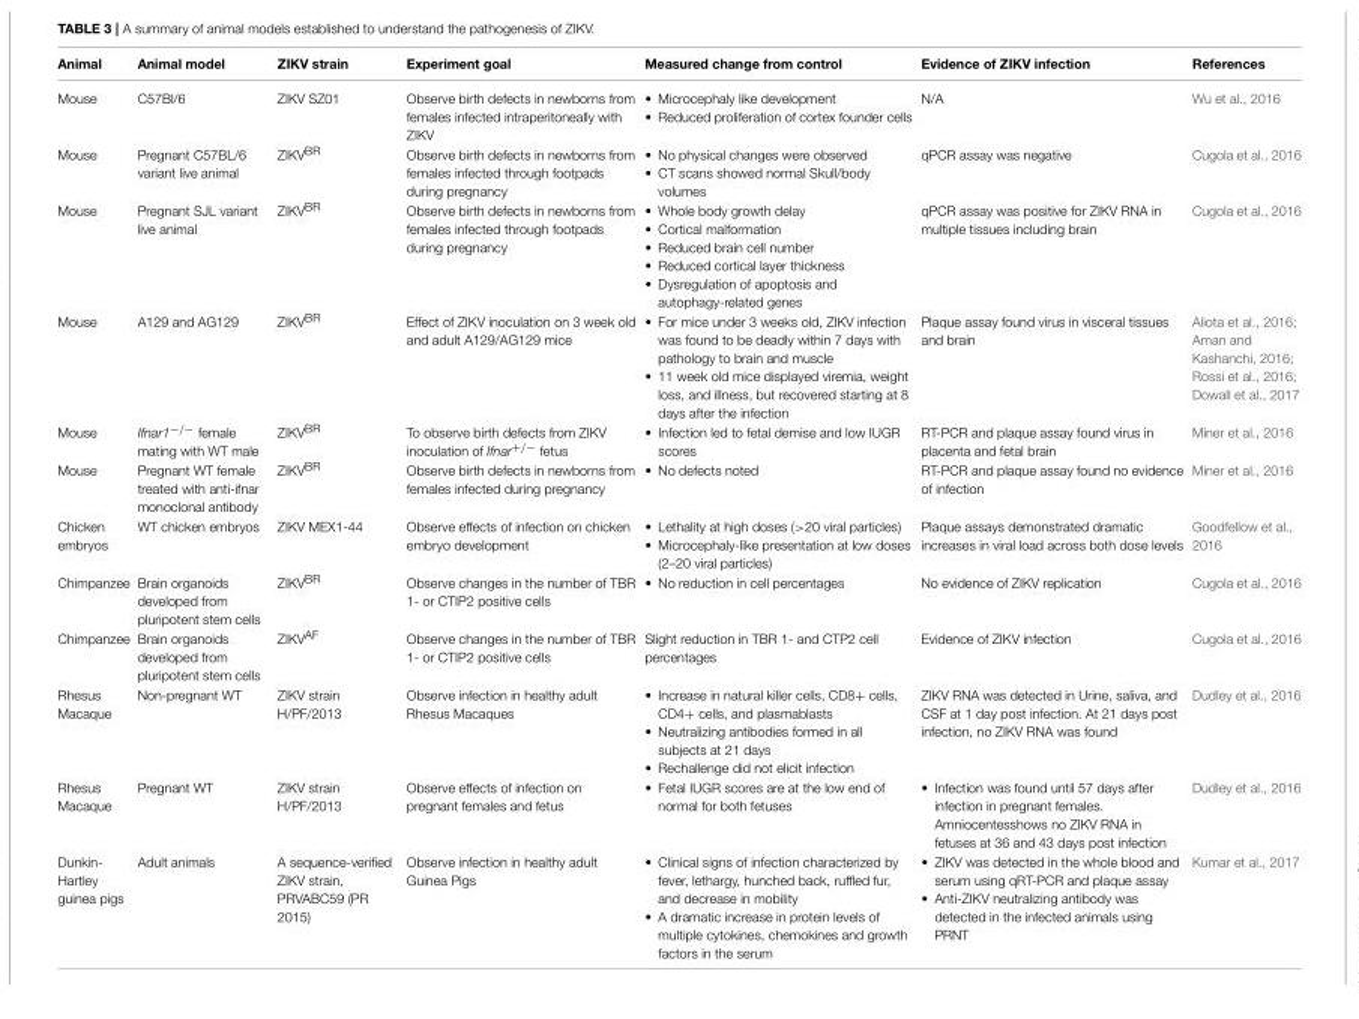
<table><thead><tr><td>Animal</td><td>Animal model</td><td>ZIKV strain</td><td>Experiment goal</td><td>Measured change from control</td><td>Evidence of ZIKV infection</td><td>References</td></tr></thead><tbody><tr><td>Mouse</td><td>C57Bl/6</td><td>ZIKV SZ01</td><td>Observe birth defects in newborns from females infected intraperitoneally with ZIKV</td><td>• Microcephaly like development • Reduced proliferation of cortex founder cells</td><td>N/A</td><td>Wu et al., 2016</td></tr><tr><td>Mouse</td><td>Pregnant C57BL/6 variant live animal</td><td>ZIKV<sup>BR</sup></td><td>Observe birth defects in newborns from females infected through footpads during pregnancy</td><td>• No physical changes were observed • CT scans showed normal Skull/body volumes</td><td>qPCR assay was negative</td><td>Cugola et al., 2016</td></tr><tr><td>Mouse</td><td>Pregnant SJL variant live animal</td><td>ZIKV<sup>BR</sup></td><td>Observe birth defects in newborns from females infected through footpads during pregnancy</td><td>• Whole body growth delay • Cortical malformation • Reduced brain cell number • Reduced cortical layer thickness • Dysregulation of apoptosis and autophagy-related genes</td><td>qPCR assay was positive for ZIKV RNA in multiple tissues including brain</td><td>Cugola et al., 2016</td></tr><tr><td>Mouse</td><td>A129 and AG129</td><td>ZIKV<sup>BR</sup></td><td>Effect of ZIKV inoculation on 3 week old and adult A129/AG129 mice</td><td>• For mice under 3 weeks old, ZIKV infection was found to be deadly within 7 days with pathology to brain and muscle • 11 week old mice displayed viremia, weight loss, and illness, but recovered starting at 8 days after the infection</td><td>Plaque assay found virus in visceral tissues and brain</td><td>Aliota et al., 2016; Aman and Kashanchi, 2016; Rossi et al., 2016; Dowall et al., 2017</td></tr><tr><td>Mouse</td><td>Ifnar1<sup>−/−</sup> female mating with WT male</td><td>ZIKV<sup>BR</sup></td><td>To observe birth defects from ZIKV inoculation of Ifnar<sup>+/−</sup> fetus</td><td>• Infection led to fetal demise and low IUGR scores</td><td>RT-PCR and plaque assay found virus in placenta and fetal brain</td><td>Miner et al., 2016</td></tr><tr><td>Mouse</td><td>Pregnant WT female treated with anti-ifnar monoclonal antibody</td><td>ZIKV<sup>BR</sup></td><td>Observe birth defects in newborns from females infected during pregnancy</td><td>• No defects noted</td><td>RT-PCR and plaque assay found no evidence of infection</td><td>Miner et al., 2016</td></tr><tr><td>Chicken embryos</td><td>WT chicken embryos</td><td>ZIKV MEX1-44</td><td>Observe effects of infection on chicken embryo development</td><td>• Lethality at high doses (&gt;20 viral particles) • Microcephaly-like presentation at low doses (2–20 viral particles)</td><td>Plaque assays demonstrated dramatic increases in viral load across both dose levels</td><td>Goodfellow et al., 2016</td></tr><tr><td>Chimpanzee</td><td>Brain organoids developed from pluripotent stem cells</td><td>ZIKV<sup>BR</sup></td><td>Observe changes in the number of TBR 1- or CTIP2 positive cells</td><td>• No reduction in cell percentages</td><td>No evidence of ZIKV replication</td><td>Cugola et al., 2016</td></tr><tr><td>Chimpanzee</td><td>Brain organoids developed from pluripotent stem cells</td><td>ZIKV<sup>AF</sup></td><td>Observe changes in the number of TBR 1- or CTIP2 positive cells</td><td>Slight reduction in TBR 1- and CTP2 cell percentages</td><td>Evidence of ZIKV infection</td><td>Cugola et al., 2016</td></tr><tr><td>Rhesus Macaque</td><td>Non-pregnant WT</td><td>ZIKV strain H/PF/2013</td><td>Observe infection in healthy adult Rhesus Macaques</td><td>• Increase in natural killer cells, CD8+ cells, CD4+ cells, and plasmablasts • Neutralizing antibodies formed in all subjects at 21 days • Rechallenge did not elicit infection</td><td>ZIKV RNA was detected in Urine, saliva, and CSF at 1 day post infection. At 21 days post infection, no ZIKV RNA was found</td><td>Dudley et al., 2016</td></tr><tr><td>Rhesus Macaque</td><td>Pregnant WT</td><td>ZIKV strain H/PF/2013</td><td>Observe effects of infection on pregnant females and fetus</td><td>• Fetal IUGR scores are at the low end of normal for both fetuses</td><td>• Infection was found until 57 days after infection in pregnant females. Amniocentesshows no ZIKV RNA in fetuses at 36 and 43 days post infection</td><td>Dudley et al., 2016</td></tr><tr><td>Dunkin- Hartley guinea pigs</td><td>Adult animals</td><td>A sequence-verified ZIKV strain, PRVABC59 (PR 2015)</td><td>Observe infection in healthy adult Guinea Pigs</td><td>• Clinical signs of infection characterized by fever, lethargy, hunched back, ruffled fur, and decrease in mobility • A dramatic increase in protein levels of multiple cytokines, chemokines and growth factors in the serum</td><td>• ZIKV was detected in the whole blood and serum using qRT-PCR and plaque assay • Anti-ZIKV neutralizing antibody was detected in the infected animals using PRNT</td><td>Kumar et al., 2017</td></tr></tbody></table>